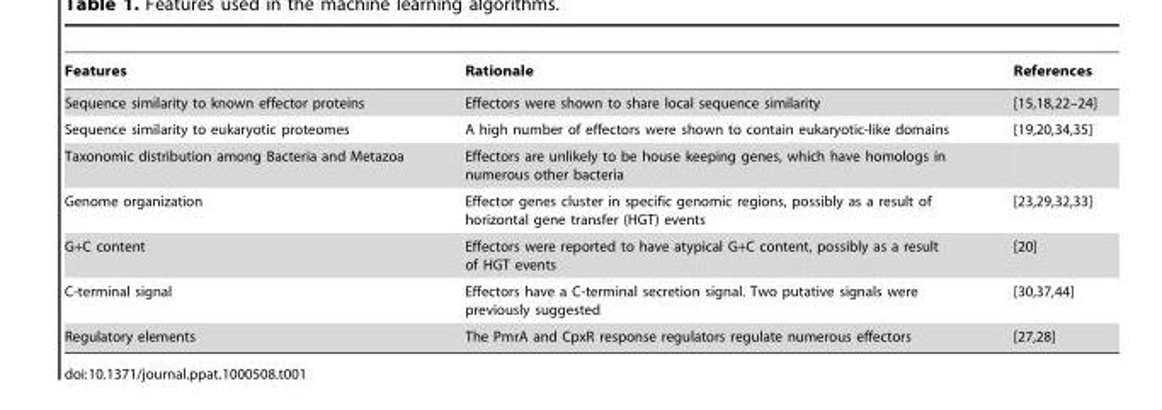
<table><thead><tr><td>Features</td><td>Rationale</td><td>References</td></tr></thead><tbody><tr><td>Sequence similarity to known effector proteins</td><td>Effectors were shown to share local sequence similarity</td><td>[15,18,22–24]</td></tr><tr><td>Sequence similarity to eukaryotic proteomes</td><td>A high number of effectors were shown to contain eukaryotic-like domains</td><td>[19,20,34,35]</td></tr><tr><td>Taxonomic distribution among Bacteria and Metazoa</td><td>Effectors are unlikely to be house keeping genes, which have homologs in numerous other bacteria</td><td></td></tr><tr><td>Genome organization</td><td>Effector genes cluster in specific genomic regions, possibly as a result of horizontal gene transfer (HGT) events</td><td>[23,29,32,33]</td></tr><tr><td>G+C content</td><td>Effectors were reported to have atypical G+C content, possibly as a result of HGT events</td><td>[20]</td></tr><tr><td>C-terminal signal</td><td>Effectors have a C-terminal secretion signal. Two putative signals were previously suggested</td><td>[30,37,44]</td></tr><tr><td>Regulatory elements</td><td>The PmrA and CpxR response regulators regulate numerous effectors</td><td>[27,28]</td></tr></tbody></table>